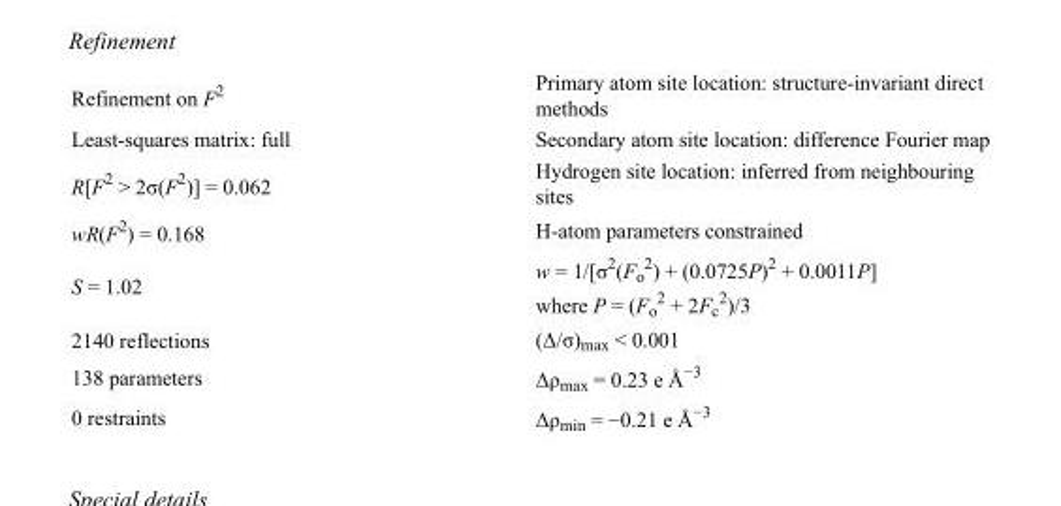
<table><tbody><tr><td>Refinement on F<sup>2</sup></td><td>Primary atom site location: structure-invariant direct methods</td></tr><tr><td>Least-squares matrix: full</td><td>Secondary atom site location: difference Fourier map</td></tr><tr><td>R[F<sup>2</sup> &gt; 2σ(F<sup>2</sup>)] = 0.062</td><td>Hydrogen site location: inferred from neighbouring sites</td></tr><tr><td>wR(F<sup>2</sup>) = 0.168</td><td>H-atom parameters constrained</td></tr><tr><td>S = 1.02</td><td>w = 1/[σ<sup>2</sup>(F<sub>o</sub> <sup>2</sup>) + (0.0725P)<sup>2</sup> + 0.0011P] where P = (F<sub>o</sub> <sup>2</sup> + 2F<sub>c</sub> <sup>2</sup>)/3</td></tr><tr><td>2140 reflections</td><td>(Δ/σ)<sub>max</sub> &lt; 0.001</td></tr><tr><td>138 parameters</td><td>Δρ<sub>max</sub> = 0.23 e Å<sup>−3</sup></td></tr><tr><td>0 restraints</td><td>Δρ<sub>min</sub> = −0.21 e Å<sup>−3</sup></td></tr></tbody></table>